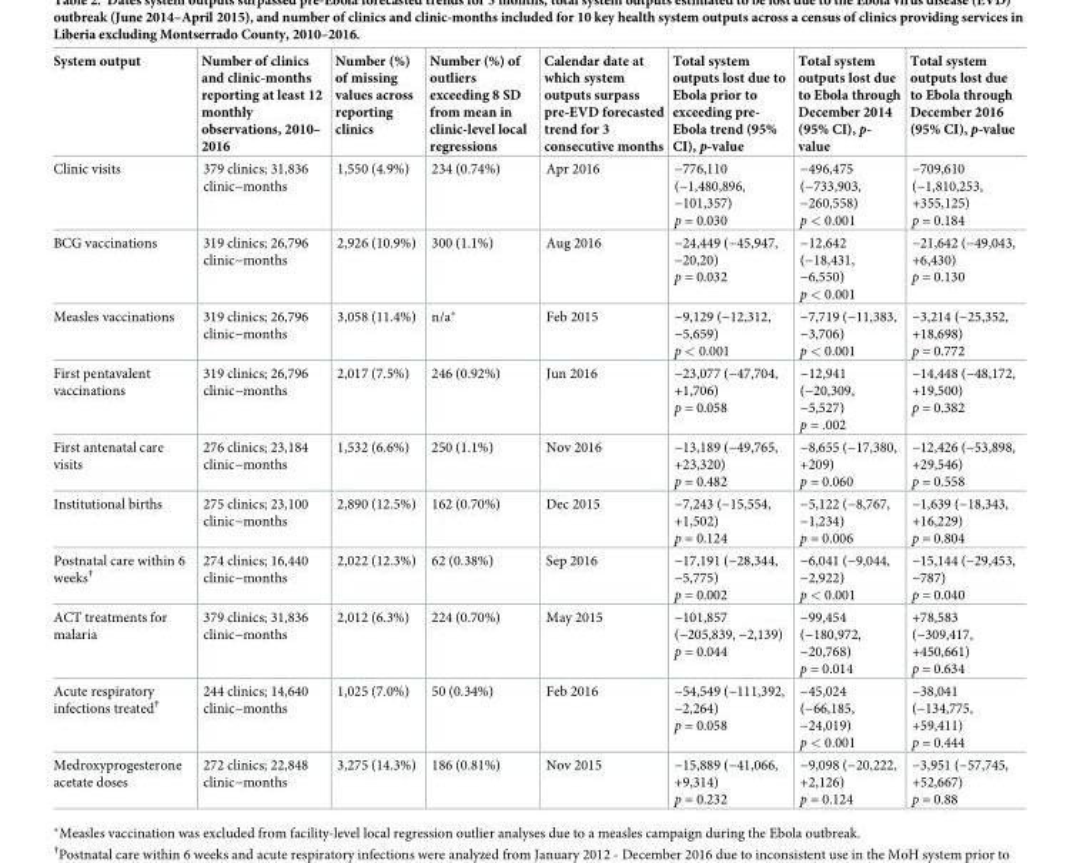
<table><thead><tr><td>System output</td><td>Number of clinics and clinic-months reporting at least 12 monthly observations, 2010– 2016</td><td>Number (%) of missing values across reporting clinics</td><td>Number (%) of outliers exceeding 8 SD from mean in clinic-level local regressions</td><td>Calendar date at which system outputs surpass pre-EVD forecasted trend for 3 consecutive months</td><td>Total system outputs lost due to Ebola prior to exceeding pre- Ebola trend (95% CI), p-value</td><td>Total system outputs lost due to Ebola through December 2014 (95% CI), p- value</td><td>Total system outputs lost due to Ebola through December 2016 (95% CI), p-value</td></tr></thead><tbody><tr><td>Clinic visits</td><td>379 clinics; 31,836 clinic−months</td><td>1,550 (4.9%)</td><td>234 (0.74%)</td><td>Apr 2016</td><td>−776,110 (−1,480,896, −101,357) p = 0.030</td><td>−496,475 (−733,903, −260,558) p &lt; 0.001</td><td>−709,610 (−1,810,253, +355,125) p = 0.184</td></tr><tr><td>BCG vaccinations</td><td>319 clinics; 26,796 clinic−months</td><td>2,926 (10.9%)</td><td>300 (1.1%)</td><td>Aug 2016</td><td>−24,449 (−45,947, −20,20) p = 0.032</td><td>−12,642 (−18,431, −6,550) p &lt; 0.001</td><td>−21,642 (−49,043, +6,430) p = 0.130</td></tr><tr><td>Measles vaccinations</td><td>319 clinics; 26,796 clinic−months</td><td>3,058 (11.4%)</td><td>n/a*</td><td>Feb 2015</td><td>−9,129 (−12,312, −5,659) p &lt; 0.001</td><td>−7,719 (−11,383, −3,706) p &lt; 0.001</td><td>−3,214 (−25,352, +18,698) p = 0.772</td></tr><tr><td>First pentavalent vaccinations</td><td>319 clinics; 26,796 clinic−months</td><td>2,017 (7.5%)</td><td>246 (0.92%)</td><td>Jun 2016</td><td>−23,077 (−47,704, +1,706) p = 0.058</td><td>−12,941 (−20,309, −5,527) p = .002</td><td>−14,448 (−48,172, +19,500) p = 0.382</td></tr><tr><td>First antenatal care visits</td><td>276 clinics; 23,184 clinic−months</td><td>1,532 (6.6%)</td><td>250 (1.1%)</td><td>Nov 2016</td><td>−13,189 (−49,765, +23,320) p = 0.482</td><td>−8,655 (−17,380, +209) p = 0.060</td><td>−12,426 (−53,898, +29,546) p = 0.558</td></tr><tr><td>Institutional births</td><td>275 clinics; 23,100 clinic−months</td><td>2,890 (12.5%)</td><td>162 (0.70%)</td><td>Dec 2015</td><td>−7,243 (−15,554, +1,502) p = 0.124</td><td>−5,122 (−8,767, −1,234) p = 0.006</td><td>−1,639 (−18,343, +16,229) p = 0.804</td></tr><tr><td>Postnatal care within 6 weeks<sup>†</sup></td><td>274 clinics; 16,440 clinic−months</td><td>2,022 (12.3%)</td><td>62 (0.38%)</td><td>Sep 2016</td><td>−17,191 (−28,344, −5,775) p = 0.002</td><td>−6,041 (−9,044, −2,922) p &lt; 0.001</td><td>−15,144 (−29,453, −787) p = 0.040</td></tr><tr><td>ACT treatments for malaria</td><td>379 clinics; 31,836 clinic−months</td><td>2,012 (6.3%)</td><td>224 (0.70%)</td><td>May 2015</td><td>−101,857 (−205,839, −2,139) p = 0.044</td><td>−99,454 (−180,972, −20,768) p = 0.014</td><td>+78,583 (−309,417, +450,661) p = 0.634</td></tr><tr><td>Acute respiratory infections treated<sup>†</sup></td><td>244 clinics; 14,640 clinic−months</td><td>1,025 (7.0%)</td><td>50 (0.34%)</td><td>Feb 2016</td><td>−54,549 (−111,392, −2,264) p = 0.058</td><td>−45,024 (−66,185, −24,019) p &lt; 0.001</td><td>−38,041 (−134,775, +59,411) p = 0.444</td></tr><tr><td>Medroxyprogesterone acetate doses</td><td>272 clinics; 22,848 clinic−months</td><td>3,275 (14.3%)</td><td>186 (0.81%)</td><td>Nov 2015</td><td>−15,889 (−41,066, +9,314) p = 0.232</td><td>−9,098 (−20,222, +2,126) p = 0.124</td><td>−3,951 (−57,745, +52,667) p = 0.88</td></tr></tbody></table>